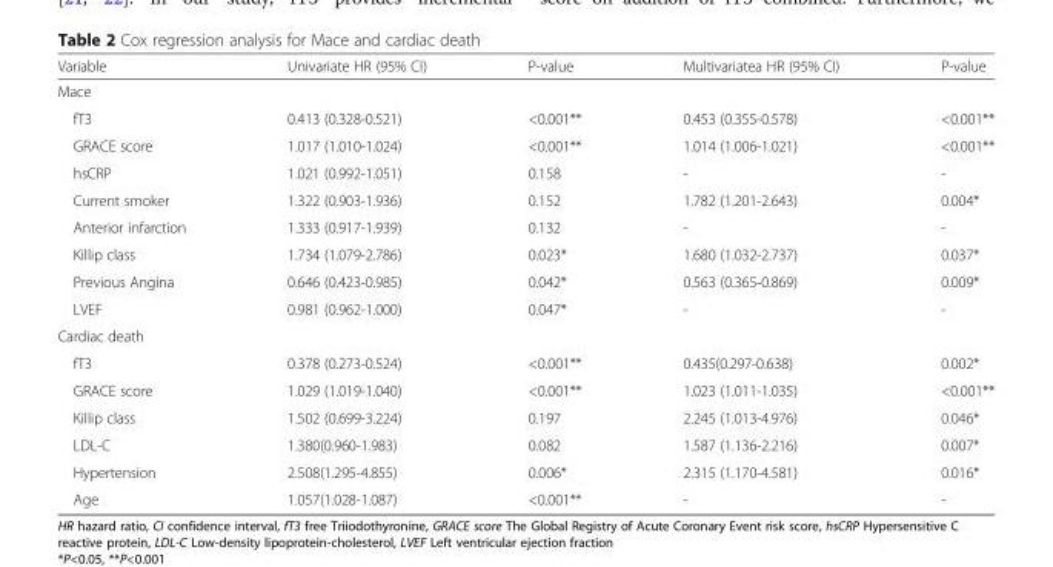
<table><thead><tr><td>Variable</td><td>Univariate HR (95% CI)</td><td>P-value</td><td>Multivariatea HR (95% CI)</td><td>P-value</td></tr></thead><tbody><tr><td colspan="5">Mace</td></tr><tr><td>fT3</td><td>0.413 (0.328-0.521)</td><td>&lt;0.001**</td><td>0.453 (0.355-0.578)</td><td>&lt;0.001**</td></tr><tr><td>GRACE score</td><td>1.017 (1.010-1.024)</td><td>&lt;0.001**</td><td>1.014 (1.006-1.021)</td><td>&lt;0.001**</td></tr><tr><td>hsCRP</td><td>1.021 (0.992-1.051)</td><td>0.158</td><td>-</td><td>-</td></tr><tr><td>Current smoker</td><td>1.322 (0.903-1.936)</td><td>0.152</td><td>1.782 (1.201-2.643)</td><td>0.004*</td></tr><tr><td>Anterior infarction</td><td>1.333 (0.917-1.939)</td><td>0.132</td><td>-</td><td>-</td></tr><tr><td>Killip class</td><td>1.734 (1.079-2.786)</td><td>0.023*</td><td>1.680 (1.032-2.737)</td><td>0.037*</td></tr><tr><td>Previous Angina</td><td>0.646 (0.423-0.985)</td><td>0.042*</td><td>0.563 (0.365-0.869)</td><td>0.009*</td></tr><tr><td>LVEF</td><td>0.981 (0.962-1.000)</td><td>0.047*</td><td>-</td><td>-</td></tr><tr><td colspan="5">Cardiac death</td></tr><tr><td>fT3</td><td>0.378 (0.273-0.524)</td><td>&lt;0.001**</td><td>0.435(0.297-0.638)</td><td>0.002*</td></tr><tr><td>GRACE score</td><td>1.029 (1.019-1.040)</td><td>&lt;0.001**</td><td>1.023 (1.011-1.035)</td><td>&lt;0.001**</td></tr><tr><td>Killip class</td><td>1.502 (0.699-3.224)</td><td>0.197</td><td>2.245 (1.013-4.976)</td><td>0.046*</td></tr><tr><td>LDL-C</td><td>1.380(0.960-1.983)</td><td>0.082</td><td>1.587 (1.136-2.216)</td><td>0.007*</td></tr><tr><td>Hypertension</td><td>2.508(1.295-4.855)</td><td>0.006*</td><td>2.315 (1.170-4.581)</td><td>0.016*</td></tr><tr><td>Age</td><td>1.057(1.028-1.087)</td><td>&lt;0.001**</td><td>-</td><td>-</td></tr></tbody></table>